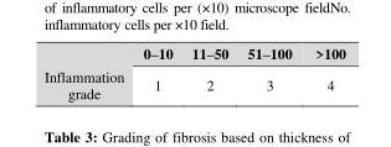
<table><thead><tr><td></td><td>0–10</td><td>11–50</td><td>51–100</td><td>&gt;100</td></tr></thead><tbody><tr><td>Inflammation grade</td><td>1</td><td>2</td><td>3</td><td>4</td></tr></tbody></table>